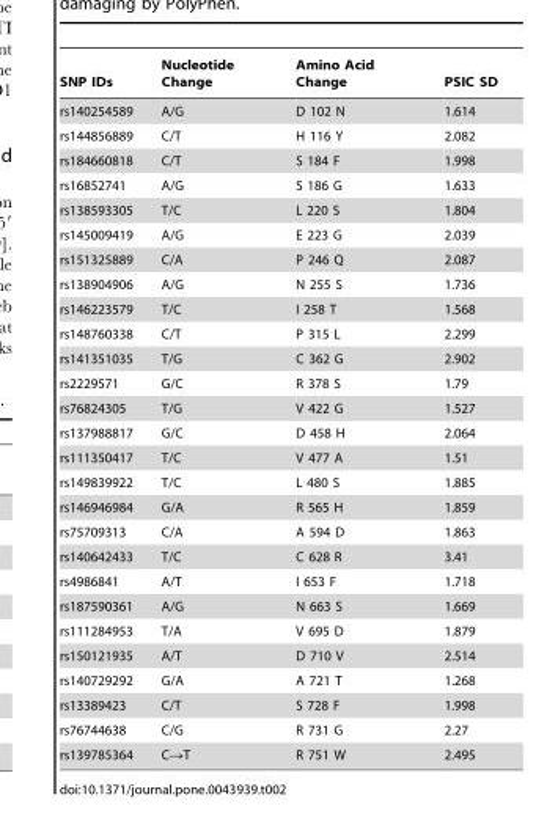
<table><thead><tr><td>SNP IDs</td><td>Nucleotide Change</td><td>Amino Acid Change</td><td>PSIC SD</td></tr></thead><tbody><tr><td>rs140254589</td><td>A/G</td><td>D 102 N</td><td>1.614</td></tr><tr><td>rs144856889</td><td>C/T</td><td>H 116 Y</td><td>2.082</td></tr><tr><td>rs184660818</td><td>C/T</td><td>S 184 F</td><td>1.998</td></tr><tr><td>rs16852741</td><td>A/G</td><td>S 186 G</td><td>1.633</td></tr><tr><td>rs138593305</td><td>T/C</td><td>L 220 S</td><td>1.804</td></tr><tr><td>rs145009419</td><td>A/G</td><td>E 223 G</td><td>2.039</td></tr><tr><td>rs151325889</td><td>C/A</td><td>P 246 Q</td><td>2.087</td></tr><tr><td>rs138904906</td><td>A/G</td><td>N 255 S</td><td>1.736</td></tr><tr><td>rs146223579</td><td>T/C</td><td>I 258 T</td><td>1.568</td></tr><tr><td>rs148760338</td><td>C/T</td><td>P 315 L</td><td>2.299</td></tr><tr><td>rs141351035</td><td>T/G</td><td>C 362 G</td><td>2.902</td></tr><tr><td>rs2229571</td><td>G/C</td><td>R 378 S</td><td>1.79</td></tr><tr><td>rs76824305</td><td>T/G</td><td>V 422 G</td><td>1.527</td></tr><tr><td>rs137988817</td><td>G/C</td><td>D 458 H</td><td>2.064</td></tr><tr><td>rs111350417</td><td>T/C</td><td>V 477 A</td><td>1.51</td></tr><tr><td>rs149839922</td><td>T/C</td><td>L 480 S</td><td>1.885</td></tr><tr><td>rs146946984</td><td>G/A</td><td>R 565 H</td><td>1.859</td></tr><tr><td>rs75709313</td><td>C/A</td><td>A 594 D</td><td>1.863</td></tr><tr><td>rs140642433</td><td>T/C</td><td>C 628 R</td><td>3.41</td></tr><tr><td>rs4986841</td><td>A/T</td><td>I 653 F</td><td>1.718</td></tr><tr><td>rs187590361</td><td>A/G</td><td>N 663 S</td><td>1.669</td></tr><tr><td>rs111284953</td><td>T/A</td><td>V 695 D</td><td>1.879</td></tr><tr><td>rs150121935</td><td>A/T</td><td>D 710 V</td><td>2.514</td></tr><tr><td>rs140729292</td><td>G/A</td><td>A 721 T</td><td>1.268</td></tr><tr><td>rs13389423</td><td>C/T</td><td>S 728 F</td><td>1.998</td></tr><tr><td>rs76744638</td><td>C/G</td><td>R 731 G</td><td>2.27</td></tr><tr><td>rs139785364</td><td>C→T</td><td>R 751 W</td><td>2.495</td></tr></tbody></table>